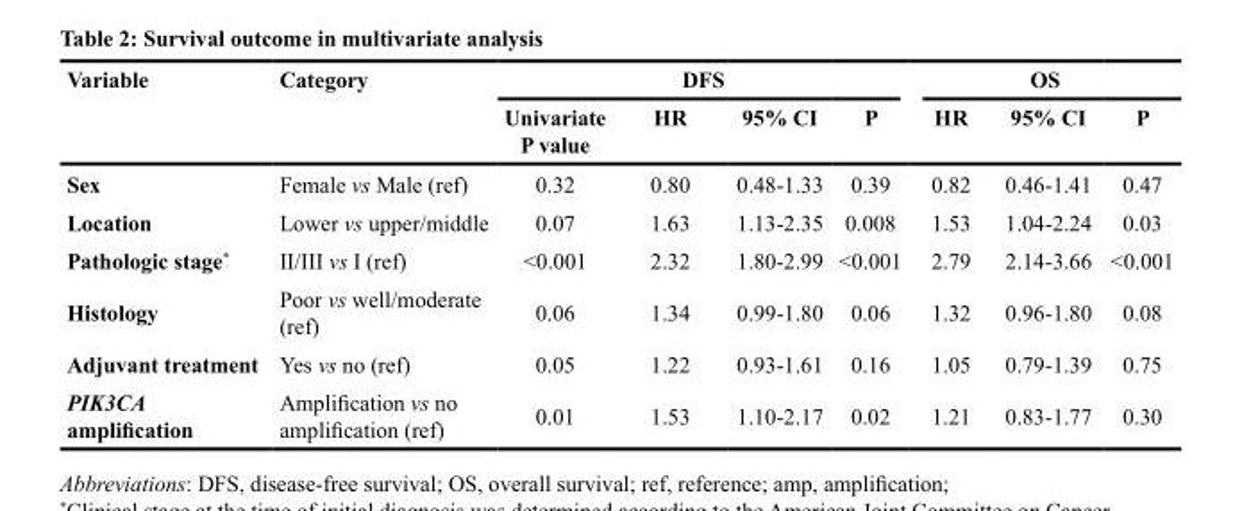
<table><thead><tr><td rowspan="2">Variable</td><td rowspan="2">Category</td><td colspan="4">DFS</td><td colspan="3">OS</td></tr><tr><td>Univariate P value</td><td>HR</td><td>95% CI</td><td>P</td><td>HR</td><td>95% CI</td><td>P</td></tr></thead><tbody><tr><td>Sex</td><td>Female vs Male (ref)</td><td>0.32</td><td>0.80</td><td>0.48-1.33</td><td>0.39</td><td>0.82</td><td>0.46-1.41</td><td>0.47</td></tr><tr><td>Location</td><td>Lower vs upper/middle</td><td>0.07</td><td>1.63</td><td>1.13-2.35</td><td>0.008</td><td>1.53</td><td>1.04-2.24</td><td>0.03</td></tr><tr><td>Pathologic stage*</td><td>II/III vs I (ref)</td><td>&lt;0.001</td><td>2.32</td><td>1.80-2.99</td><td>&lt;0.001</td><td>2.79</td><td>2.14-3.66</td><td>&lt;0.001</td></tr><tr><td>Histology</td><td>Poor vs well/moderate (ref)</td><td>0.06</td><td>1.34</td><td>0.99-1.80</td><td>0.06</td><td>1.32</td><td>0.96-1.80</td><td>0.08</td></tr><tr><td>Adjuvant treatment</td><td>Yes vs no (ref)</td><td>0.05</td><td>1.22</td><td>0.93-1.61</td><td>0.16</td><td>1.05</td><td>0.79-1.39</td><td>0.75</td></tr><tr><td>PIK3CA amplification</td><td>Amplification vs no amplification (ref)</td><td>0.01</td><td>1.53</td><td>1.10-2.17</td><td>0.02</td><td>1.21</td><td>0.83-1.77</td><td>0.30</td></tr></tbody></table>